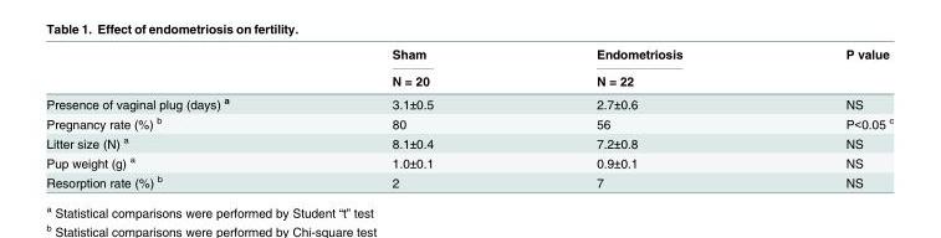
<table><thead><tr><td rowspan="2"></td><td rowspan="2">Sham N = 20</td><td rowspan="2">Endometriosis N = 22</td><td rowspan="2">P value</td></tr><tr></tr></thead><tbody><tr><td>Presence of vaginal plug (days) <sup>a</sup></td><td>3.1±0.5</td><td>2.7±0.6</td><td>NS</td></tr><tr><td>Pregnancy rate (%) <sup>b</sup></td><td>80</td><td>56</td><td>P&lt;0.05 <sup>c</sup></td></tr><tr><td>Litter size (N) <sup>a</sup></td><td>8.1±0.4</td><td>7.2±0.8</td><td>NS</td></tr><tr><td>Pup weight (g) <sup>a</sup></td><td>1.0±0.1</td><td>0.9±0.1</td><td>NS</td></tr><tr><td>Resorption rate (%) <sup>b</sup></td><td>2</td><td>7</td><td>NS</td></tr></tbody></table>